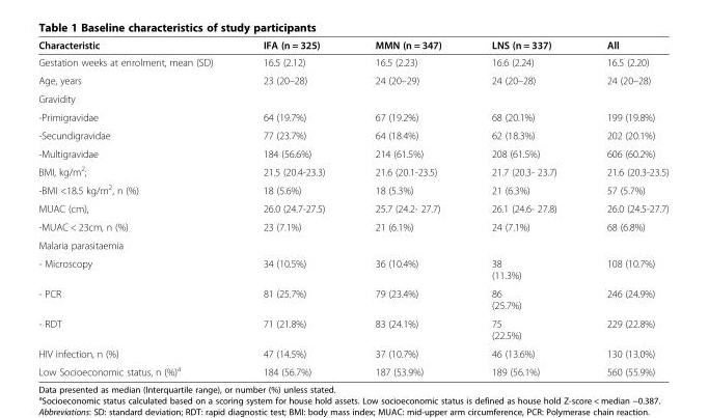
<table><thead><tr><td>Characteristic</td><td>IFA (n = 325)</td><td>MMN (n = 347)</td><td>LNS (n = 337)</td><td>All</td></tr></thead><tbody><tr><td>Gestation weeks at enrolment, mean (SD)</td><td>16.5 (2.12)</td><td>16.5 (2.23)</td><td>16.6 (2.24)</td><td>16.5 (2.20)</td></tr><tr><td>Age, years</td><td>23 (20–28)</td><td>24 (20–29)</td><td>24 (20–28)</td><td>24 (20–28)</td></tr><tr><td colspan="5">Gravidity</td></tr><tr><td>-Primigravidae</td><td>64 (19.7%)</td><td>67 (19.2%)</td><td>68 (20.1%)</td><td>199 (19.8%)</td></tr><tr><td>-Secundigravidae</td><td>77 (23.7%)</td><td>64 (18.4%)</td><td>62 (18.3%)</td><td>202 (20.1%)</td></tr><tr><td>-Multigravidae</td><td>184 (56.6%)</td><td>214 (61.5%)</td><td>208 (61.5%)</td><td>606 (60.2%)</td></tr><tr><td>BMI, kg/m<sup>2</sup>;</td><td>21.5 (20.4-23.3)</td><td>21.6 (20.1-23.5)</td><td>21.7 (20.3- 23.7)</td><td>21.6 (20.3-23.5)</td></tr><tr><td>-BMI &lt;18.5 kg/m<sup>2</sup>, n (%)</td><td>18 (5.6%)</td><td>18 (5.3%)</td><td>21 (6.3%)</td><td>57 (5.7%)</td></tr><tr><td>MUAC (cm),</td><td>26.0 (24.7-27.5)</td><td>25.7 (24.2- 27.7)</td><td>26.1 (24.6- 27.8)</td><td>26.0 (24.5-27.7)</td></tr><tr><td>-MUAC &lt; 23cm, n (%)</td><td>23 (7.1%)</td><td>21 (6.1%)</td><td>24 (7.1%)</td><td>68 (6.8%)</td></tr><tr><td colspan="5">Malaria parasitaemia</td></tr><tr><td>- Microscopy</td><td>34 (10.5%)</td><td>36 (10.4%)</td><td>38 (11.3%)</td><td>108 (10.7%)</td></tr><tr><td>- PCR</td><td>81 (25.7%)</td><td>79 (23.4%)</td><td>86 (25.7%)</td><td>246 (24.9%)</td></tr><tr><td>- RDT</td><td>71 (21.8%)</td><td>83 (24.1%)</td><td>75 (22.5%)</td><td>229 (22.8%)</td></tr><tr><td>HIV infection, n (%)</td><td>47 (14.5%)</td><td>37 (10.7%)</td><td>46 (13.6%)</td><td>130 (13.0%)</td></tr><tr><td>Low Socioeconomic status, n (%)<sup>a</sup></td><td>184 (56.7%)</td><td>187 (53.9%)</td><td>189 (56.1%)</td><td>560 (55.9%)</td></tr></tbody></table>